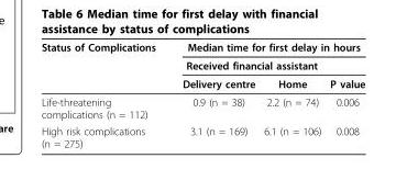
<table><thead><tr><td rowspan="3">Status of Complications</td><td colspan="3">Median time for first delay in hours</td></tr><tr><td colspan="2">Received financial assistant</td><td rowspan="2">P value</td></tr><tr><td>Delivery centre</td><td>Home</td></tr></thead><tbody><tr><td>Life-threatening complications (n = 112)</td><td>0.9 (n = 38)</td><td>2.2 (n = 74)</td><td>0.006</td></tr><tr><td>High risk complications (n = 275)</td><td>3.1 (n = 169)</td><td>6.1 (n = 106)</td><td>0.008</td></tr></tbody></table>